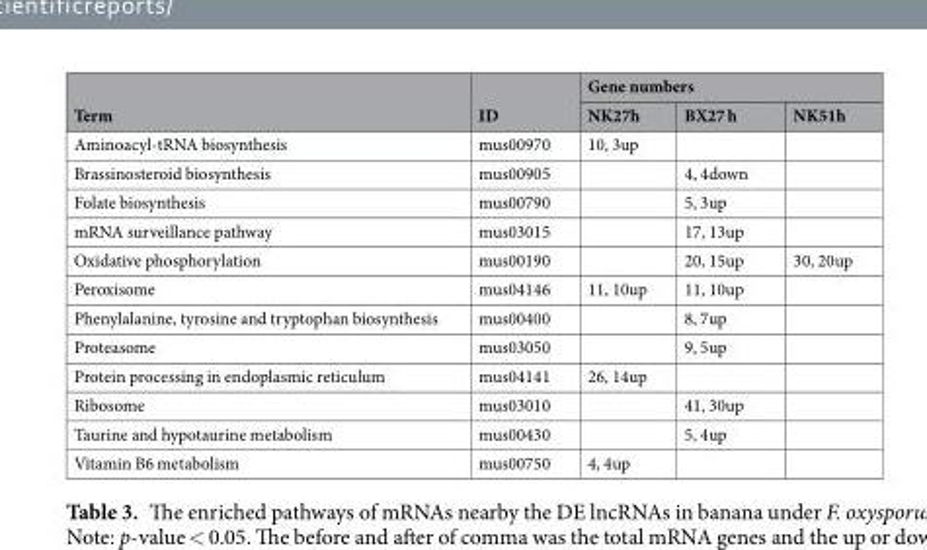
<table><thead><tr><td rowspan="2">Term</td><td rowspan="2">ID</td><td colspan="3">Gene numbers</td></tr><tr><td>NK27h</td><td>BX27 h</td><td>NK51h</td></tr></thead><tbody><tr><td>Aminoacyl-tRNA biosynthesis</td><td>mus00970</td><td>10, 3up</td><td></td><td></td></tr><tr><td>Brassinosteroid biosynthesis</td><td>mus00905</td><td></td><td>4, 4down</td><td></td></tr><tr><td>Folate biosynthesis</td><td>mus00790</td><td></td><td>5, 3up</td><td></td></tr><tr><td>mRNA surveillance pathway</td><td>mus03015</td><td></td><td>17, 13up</td><td></td></tr><tr><td>Oxidative phosphorylation</td><td>mus00190</td><td></td><td>20, 15up</td><td>30, 20up</td></tr><tr><td>Peroxisome</td><td>mus04146</td><td>11, 10up</td><td>11, 10up</td><td></td></tr><tr><td>Phenylalanine, tyrosine and tryptophan biosynthesis</td><td>mus00400</td><td></td><td>8, 7up</td><td></td></tr><tr><td>Proteasome</td><td>mus03050</td><td></td><td>9, 5up</td><td></td></tr><tr><td>Protein processing in endoplasmic reticulum</td><td>mus04141</td><td>26, 14up</td><td></td><td></td></tr><tr><td>Ribosome</td><td>mus03010</td><td></td><td>41, 30up</td><td></td></tr><tr><td>Taurine and hypotaurine metabolism</td><td>mus00430</td><td></td><td>5, 4up</td><td></td></tr><tr><td>Vitamin B6 metabolism</td><td>mus00750</td><td>4, 4up</td><td></td><td></td></tr></tbody></table>